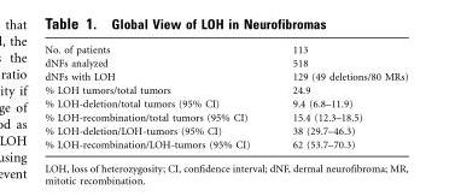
<table><tbody><tr><td>No. of patients</td><td>113</td></tr><tr><td>dNFs analyzed</td><td>518</td></tr><tr><td>dNFs with LOH</td><td>129 (49 deletions/80 MRs)</td></tr><tr><td>% LOH tumors/total tumors</td><td>24.9</td></tr><tr><td>% LOH-deletion/total tumors (95% CI)</td><td>9.4 (6.8–11.9)</td></tr><tr><td>% LOH-recombination/total tumors (95% CI)</td><td>15.4 (12.3–18.5)</td></tr><tr><td>% LOH-deletion/LOH-tumors (95% CI)</td><td>38 (29.7–46.3)</td></tr><tr><td>% LOH-recombination/LOH-tumors (95% CI)</td><td>62 (53.7–70.3)</td></tr></tbody></table>